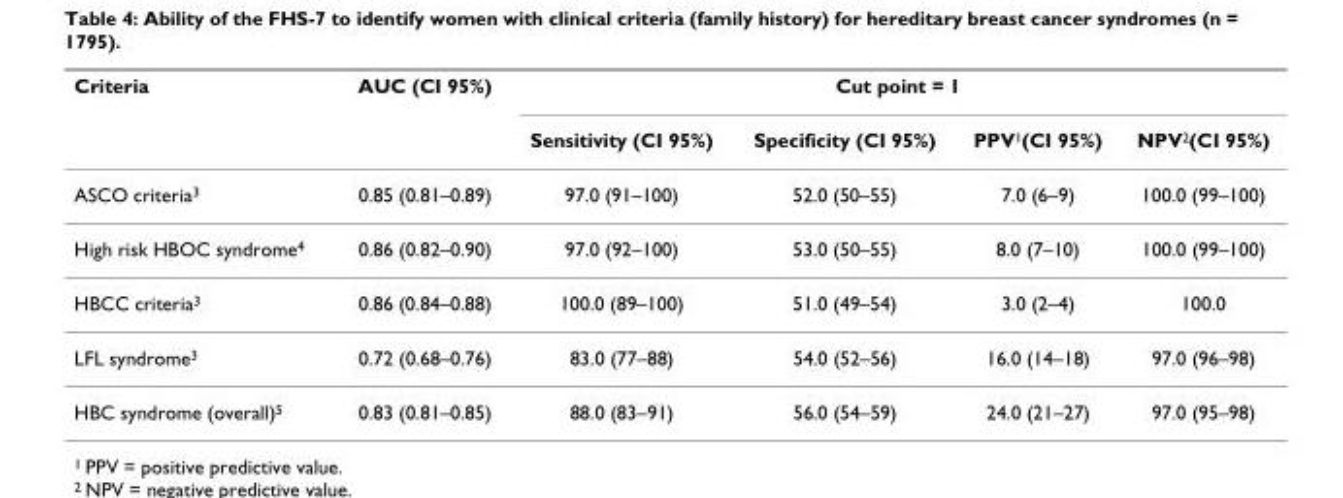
<table><thead><tr><td rowspan="2">Criteria</td><td rowspan="2">AUC (CI 95%)</td><td colspan="4">Cut point = 1</td></tr><tr><td>Sensitivity (CI 95%)</td><td>Specificity (CI 95%)</td><td>PPV<sup>1</sup>(CI 95%)</td><td>NPV<sup>2</sup>(CI 95%)</td></tr></thead><tbody><tr><td>ASCO criteria<sup>3</sup></td><td>0.85 (0.81–0.89)</td><td>97.0 (91–100)</td><td>52.0 (50–55)</td><td>7.0 (6–9)</td><td>100.0 (99–100)</td></tr><tr><td>High risk HBOC syndrome<sup>4</sup></td><td>0.86 (0.82–0.90)</td><td>97.0 (92–100)</td><td>53.0 (50–55)</td><td>8.0 (7–10)</td><td>100.0 (99–100)</td></tr><tr><td>HBCC criteria<sup>3</sup></td><td>0.86 (0.84–0.88)</td><td>100.0 (89–100)</td><td>51.0 (49–54)</td><td>3.0 (2–4)</td><td>100.0</td></tr><tr><td>LFL syndrome<sup>3</sup></td><td>0.72 (0.68–0.76)</td><td>83.0 (77–88)</td><td>54.0 (52–56)</td><td>16.0 (14–18)</td><td>97.0 (96–98)</td></tr><tr><td>HBC syndrome (overall)<sup>5</sup></td><td>0.83 (0.81–0.85)</td><td>88.0 (83–91)</td><td>56.0 (54–59)</td><td>24.0 (21–27)</td><td>97.0 (95–98)</td></tr></tbody></table>